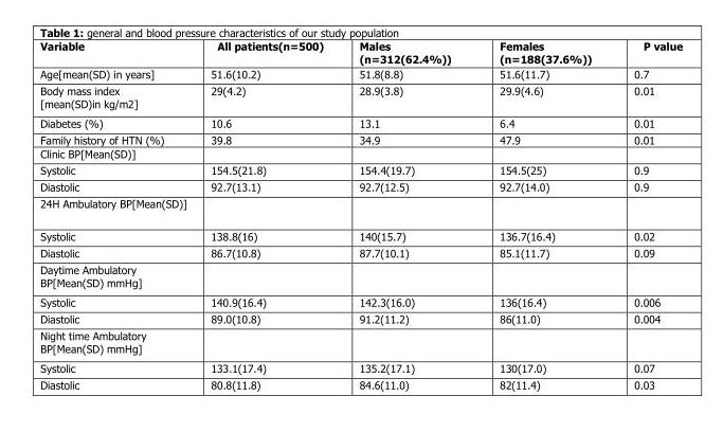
<table><thead><tr><td>Variable</td><td>All patients(n=500)</td><td>Males (n=312(62.4%))</td><td>Females (n=188(37.6%))</td><td>P value</td></tr></thead><tbody><tr><td>Age[mean(SD) in years]</td><td>51.6(10.2)</td><td>51.8(8.8)</td><td>51.6(11.7)</td><td>0.7</td></tr><tr><td>Body mass index [mean(SD)in kg/m2]</td><td>29(4.2)</td><td>28.9(3.8)</td><td>29.9(4.6)</td><td>0.01</td></tr><tr><td>Diabetes (%)</td><td>10.6</td><td>13.1</td><td>6.4</td><td>0.01</td></tr><tr><td>Family history of HTN (%)</td><td>39.8</td><td>34.9</td><td>47.9</td><td>0.01</td></tr><tr><td colspan="5">Clinic BP[Mean(SD)]</td></tr><tr><td>Systolic</td><td>154.5(21.8)</td><td>154.4(19.7)</td><td>154.5(25)</td><td>0.9</td></tr><tr><td>Diastolic</td><td>92.7(13.1)</td><td>92.7(12.5)</td><td>92.7(14.0)</td><td>0.9</td></tr><tr><td colspan="5">24H Ambulatory BP[Mean(SD)]</td></tr><tr><td>Systolic</td><td>138.8(16)</td><td>140(15.7)</td><td>136.7(16.4)</td><td>0.02</td></tr><tr><td>Diastolic</td><td>86.7(10.8)</td><td>87.7(10.1)</td><td>85.1(11.7)</td><td>0.09</td></tr><tr><td colspan="5">Daytime Ambulatory BP[Mean(SD) mmHg]</td></tr><tr><td>Systolic</td><td>140.9(16.4)</td><td>142.3(16.0)</td><td>136(16.4)</td><td>0.006</td></tr><tr><td>Diastolic</td><td>89.0(10.8)</td><td>91.2(11.2)</td><td>86(11.0)</td><td>0.004</td></tr><tr><td colspan="5">Night time Ambulatory BP[Mean(SD) mmHg]</td></tr><tr><td>Systolic</td><td>133.1(17.4)</td><td>135.2(17.1)</td><td>130(17.0)</td><td>0.07</td></tr><tr><td>Diastolic</td><td>80.8(11.8)</td><td>84.6(11.0)</td><td>82(11.4)</td><td>0.03</td></tr></tbody></table>